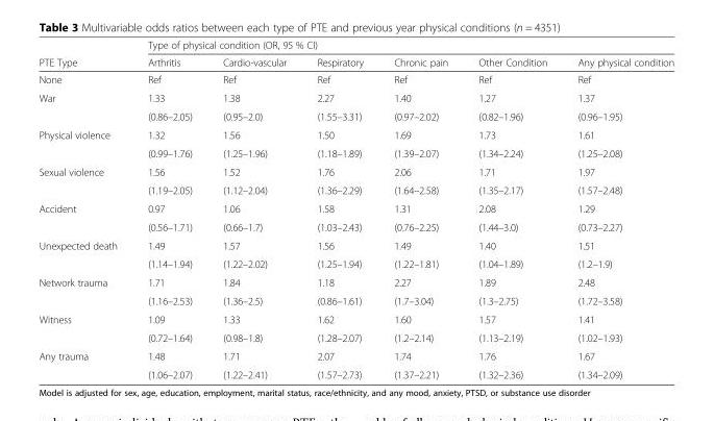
<table><thead><tr><td rowspan="2">PTE Type</td><td colspan="6">Type of physical condition (OR, 95 % CI)</td></tr><tr><td>Arthritis</td><td>Cardio-vascular</td><td>Respiratory</td><td>Chronic pain</td><td>Other Condition</td><td>Any physical condition</td></tr></thead><tbody><tr><td>None</td><td>Ref</td><td>Ref</td><td>Ref</td><td>Ref</td><td>Ref</td><td>Ref</td></tr><tr><td rowspan="2">War</td><td>1.33</td><td>1.38</td><td>2.27</td><td>1.40</td><td>1.27</td><td>1.37</td></tr><tr><td>(0.86–2.05)</td><td>(0.95–2.0)</td><td>(1.55–3.31)</td><td>(0.97–2.02)</td><td>(0.82–1.96)</td><td>(0.96–1.95)</td></tr><tr><td rowspan="2">Physical violence</td><td>1.32</td><td>1.56</td><td>1.50</td><td>1.69</td><td>1.73</td><td>1.61</td></tr><tr><td>(0.99–1.76)</td><td>(1.25–1.96)</td><td>(1.18–1.89)</td><td>(1.39–2.07)</td><td>(1.34–2.24)</td><td>(1.25–2.08)</td></tr><tr><td rowspan="2">Sexual violence</td><td>1.56</td><td>1.52</td><td>1.76</td><td>2.06</td><td>1.71</td><td>1.97</td></tr><tr><td>(1.19–2.05)</td><td>(1.12–2.04)</td><td>(1.36–2.29)</td><td>(1.64–2.58)</td><td>(1.35–2.17)</td><td>(1.57–2.48)</td></tr><tr><td rowspan="2">Accident</td><td>0.97</td><td>1.06</td><td>1.58</td><td>1.31</td><td>2.08</td><td>1.29</td></tr><tr><td>(0.56–1.71)</td><td>(0.66–1.7)</td><td>(1.03–2.43)</td><td>(0.76–2.25)</td><td>(1.44–3.0)</td><td>(0.73–2.27)</td></tr><tr><td rowspan="2">Unexpected death</td><td>1.49</td><td>1.57</td><td>1.56</td><td>1.49</td><td>1.40</td><td>1.51</td></tr><tr><td>(1.14–1.94)</td><td>(1.22–2.02)</td><td>(1.25–1.94)</td><td>(1.22–1.81)</td><td>(1.04–1.89)</td><td>(1.2–1.9)</td></tr><tr><td rowspan="2">Network trauma</td><td>1.71</td><td>1.84</td><td>1.18</td><td>2.27</td><td>1.89</td><td>2.48</td></tr><tr><td>(1.16–2.53)</td><td>(1.36–2.5)</td><td>(0.86–1.61)</td><td>(1.7–3.04)</td><td>(1.3–2.75)</td><td>(1.72–3.58)</td></tr><tr><td rowspan="2">Witness</td><td>1.09</td><td>1.33</td><td>1.62</td><td>1.60</td><td>1.57</td><td>1.41</td></tr><tr><td>(0.72–1.64)</td><td>(0.98–1.8)</td><td>(1.28–2.07)</td><td>(1.2–2.14)</td><td>(1.13–2.19)</td><td>(1.02–1.93)</td></tr><tr><td rowspan="2">Any trauma</td><td>1.48</td><td>1.71</td><td>2.07</td><td>1.74</td><td>1.76</td><td>1.67</td></tr><tr><td>(1.06–2.07)</td><td>(1.22–2.41)</td><td>(1.57–2.73)</td><td>(1.37–2.21)</td><td>(1.32–2.36)</td><td>(1.34–2.09)</td></tr></tbody></table>